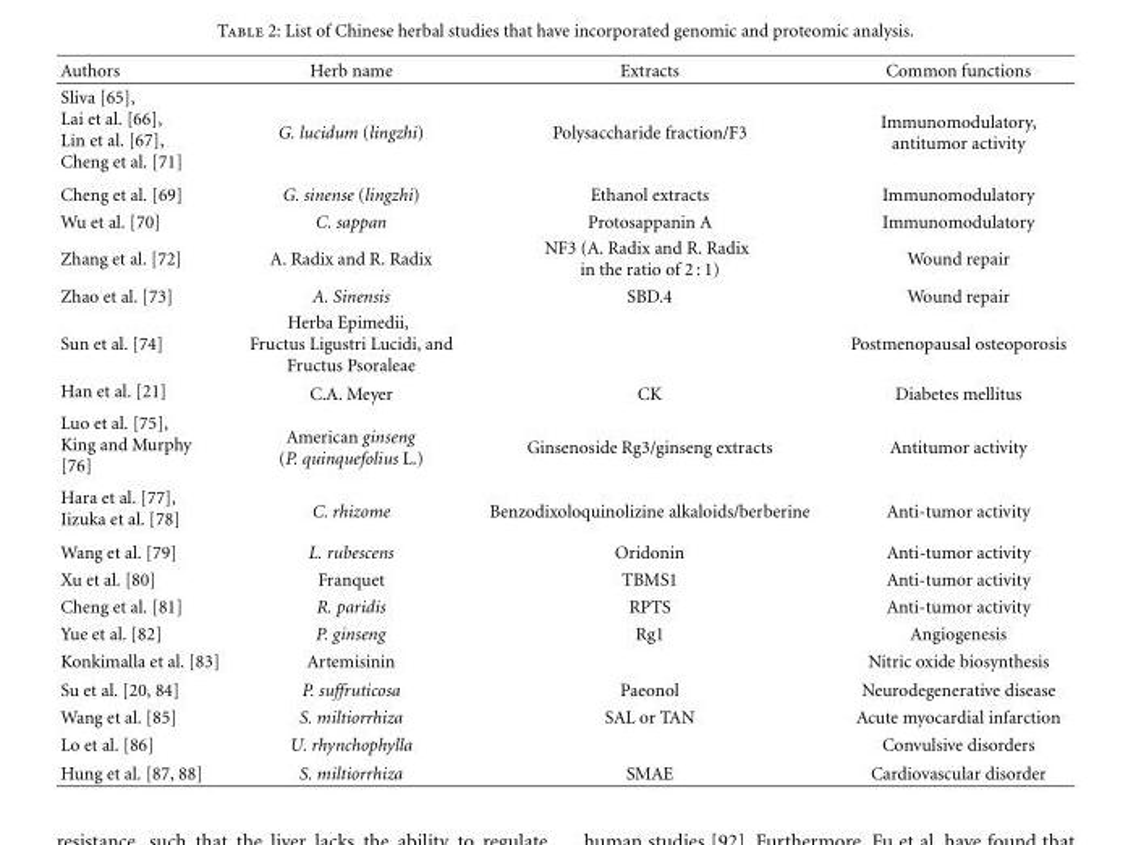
<table><thead><tr><td>Authors</td><td>Herb name</td><td>Extracts</td><td>Common functions</td></tr></thead><tbody><tr><td>Sliva [65], Lai et al. [66], Lin et al. [67], Cheng et al. [71]</td><td>G. lucidum (lingzhi)</td><td>Polysaccharide fraction/F3</td><td>Immunomodulatory, antitumor activity</td></tr><tr><td>Cheng et al. [69]</td><td>G. sinense (lingzhi)</td><td>Ethanol extracts</td><td>Immunomodulatory</td></tr><tr><td>Wu et al. [70]</td><td>C. sappan</td><td>Protosappanin A</td><td>Immunomodulatory</td></tr><tr><td>Zhang et al. [72]</td><td>A. Radix and R. Radix</td><td>NF3 (A. Radix and R. Radix in the ratio of 2 : 1)</td><td>Wound repair</td></tr><tr><td>Zhao et al. [73]</td><td>A. Sinensis</td><td>SBD.4</td><td>Wound repair</td></tr><tr><td>Sun et al. [74]</td><td>Herba Epimedii, Fructus Ligustri Lucidi, and Fructus Psoraleae</td><td></td><td>Postmenopausal osteoporosis</td></tr><tr><td>Han et al. [21]</td><td>C.A. Meyer</td><td>CK</td><td>Diabetes mellitus</td></tr><tr><td>Luo et al. [75], King and Murphy [76]</td><td>American ginseng (P. quinquefolius L.)</td><td>Ginsenoside Rg3/ginseng extracts</td><td>Antitumor activity</td></tr><tr><td>Hara et al. [77], Iizuka et al. [78]</td><td>C. rhizome</td><td>Benzodixoloquinolizine alkaloids/berberine</td><td>Anti-tumor activity</td></tr><tr><td>Wang et al. [79]</td><td>L. rubescens</td><td>Oridonin</td><td>Anti-tumor activity</td></tr><tr><td>Xu et al. [80]</td><td>Franquet</td><td>TBMS1</td><td>Anti-tumor activity</td></tr><tr><td>Cheng et al. [81]</td><td>R. paridis</td><td>RPTS</td><td>Anti-tumor activity</td></tr><tr><td>Yue et al. [82]</td><td>P. ginseng</td><td>Rg1</td><td>Angiogenesis</td></tr><tr><td>Konkimalla et al. [83]</td><td>Artemisinin</td><td></td><td>Nitric oxide biosynthesis</td></tr><tr><td>Su et al. [20, 84]</td><td>P. suffruticosa</td><td>Paeonol</td><td>Neurodegenerative disease</td></tr><tr><td>Wang et al. [85]</td><td>S. miltiorrhiza</td><td>SAL or TAN</td><td>Acute myocardial infarction</td></tr><tr><td>Lo et al. [86]</td><td>U. rhynchophylla</td><td></td><td>Convulsive disorders</td></tr><tr><td>Hung et al. [87, 88]</td><td>S. miltiorrhiza</td><td>SMAE</td><td>Cardiovascular disorder</td></tr></tbody></table>